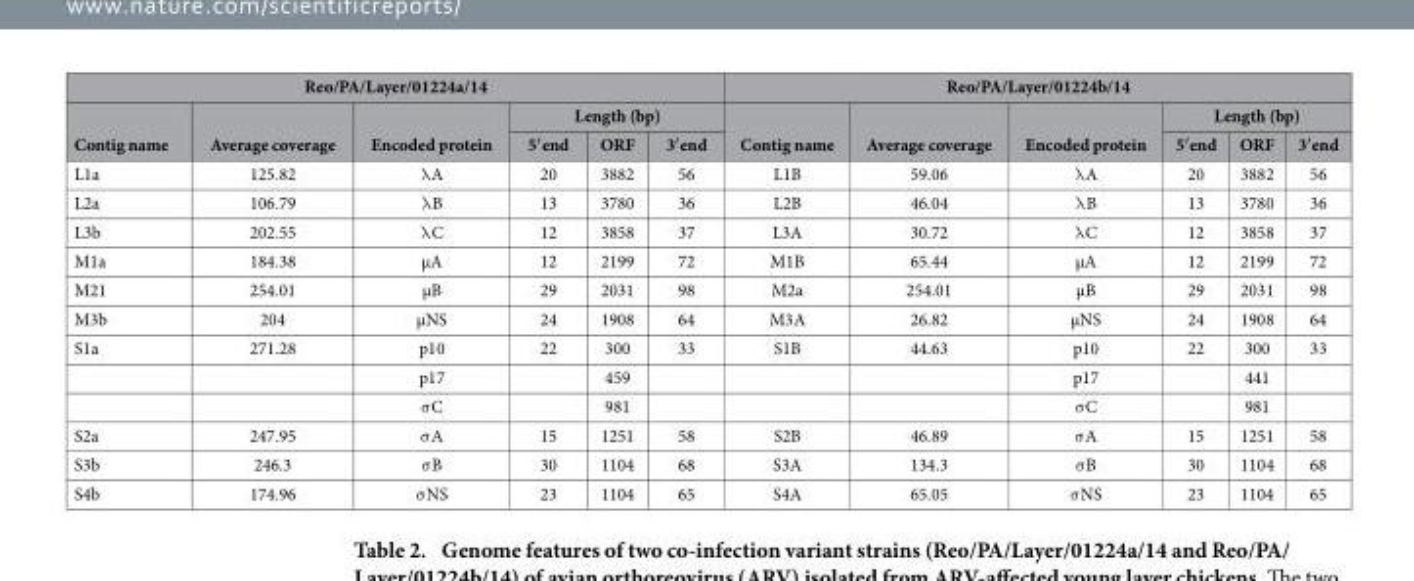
<table><thead><tr><td colspan="6">Reo/PA/Layer/01224a/14</td><td colspan="6">Reo/PA/Layer/01224b/14</td></tr><tr><td rowspan="2">Contig name</td><td rowspan="2">Average coverage</td><td rowspan="2">Encoded protein</td><td colspan="3">Length (bp)</td><td rowspan="2">Contig name</td><td rowspan="2">Average coverage</td><td rowspan="2">Encoded protein</td><td colspan="3">Length (bp)</td></tr><tr><td>5′ end</td><td>ORF</td><td>3′ end</td><td>5′ end</td><td>ORF</td><td>3′ end</td></tr></thead><tbody><tr><td>L1a</td><td>125.82</td><td>λ A</td><td>20</td><td>3882</td><td>56</td><td>L1B</td><td>59.06</td><td>λ A</td><td>20</td><td>3882</td><td>56</td></tr><tr><td>L2a</td><td>106.79</td><td>λ B</td><td>13</td><td>3780</td><td>36</td><td>L2B</td><td>46.04</td><td>λ B</td><td>13</td><td>3780</td><td>36</td></tr><tr><td>L3b</td><td>202.55</td><td>λ C</td><td>12</td><td>3858</td><td>37</td><td>L3A</td><td>30.72</td><td>λ C</td><td>12</td><td>3858</td><td>37</td></tr><tr><td>M1a</td><td>184.38</td><td>μA</td><td>12</td><td>2199</td><td>72</td><td>M1B</td><td>65.44</td><td>μA</td><td>12</td><td>2199</td><td>72</td></tr><tr><td>M21</td><td>254.01</td><td>μB</td><td>29</td><td>2031</td><td>98</td><td>M2a</td><td>254.01</td><td>μB</td><td>29</td><td>2031</td><td>98</td></tr><tr><td>M3b</td><td>204</td><td>μNS</td><td>24</td><td>1908</td><td>64</td><td>M3A</td><td>26.82</td><td>μNS</td><td>24</td><td>1908</td><td>64</td></tr><tr><td rowspan="3">S1a</td><td>271.28</td><td>p10</td><td>22</td><td>300</td><td>33</td><td>S1B</td><td>44.63</td><td>p10</td><td>22</td><td>300</td><td>33</td></tr><tr><td></td><td>p17</td><td></td><td>459</td><td></td><td></td><td></td><td>p17</td><td></td><td>441</td><td></td></tr><tr><td></td><td>σ C</td><td></td><td>981</td><td></td><td></td><td></td><td>σ C</td><td></td><td>981</td><td></td></tr><tr><td>S2a</td><td>247.95</td><td>σ A</td><td>15</td><td>1251</td><td>58</td><td>S2B</td><td>46.89</td><td>σ A</td><td>15</td><td>1251</td><td>58</td></tr><tr><td>S3b</td><td>246.3</td><td>σ B</td><td>30</td><td>1104</td><td>68</td><td>S3A</td><td>134.3</td><td>σ B</td><td>30</td><td>1104</td><td>68</td></tr><tr><td>S4b</td><td>174.96</td><td>σ NS</td><td>23</td><td>1104</td><td>65</td><td>S4A</td><td>65.05</td><td>σ NS</td><td>23</td><td>1104</td><td>65</td></tr></tbody></table>